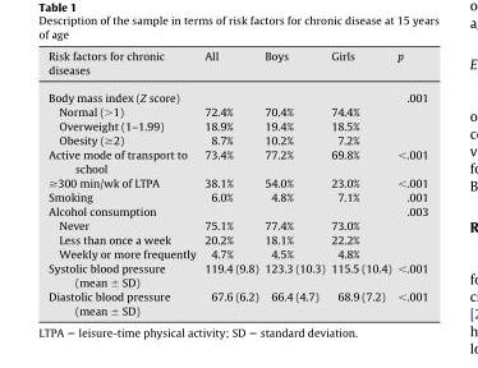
<table><thead><tr><td>Risk factors for chronic diseases</td><td>All</td><td>Boys</td><td>Girls</td><td>p</td></tr></thead><tbody><tr><td>Body mass index (Z score)</td><td></td><td></td><td></td><td>.001</td></tr><tr><td>Normal (&gt;1)</td><td>72.4%</td><td>70.4%</td><td>74.4%</td><td></td></tr><tr><td>Overweight (1–1.99)</td><td>18.9%</td><td>19.4%</td><td>18.5%</td><td></td></tr><tr><td>Obesity (≥2)</td><td>8.7%</td><td>10.2%</td><td>7.2%</td><td></td></tr><tr><td>Active mode of transport to school</td><td>73.4%</td><td>77.2%</td><td>69.8%</td><td>&lt;.001</td></tr><tr><td>≥300 min/wk of LTPA</td><td>38.1%</td><td>54.0%</td><td>23.0%</td><td>&lt;.001</td></tr><tr><td>Smoking</td><td>6.0%</td><td>4.8%</td><td>7.1%</td><td>.001</td></tr><tr><td>Alcohol consumption</td><td></td><td></td><td></td><td>.003</td></tr><tr><td>Never</td><td>75.1%</td><td>77.4%</td><td>73.0%</td><td></td></tr><tr><td>Less than once a week</td><td>20.2%</td><td>18.1%</td><td>22.2%</td><td></td></tr><tr><td>Weekly or more frequently</td><td>4.7%</td><td>4.5%</td><td>4.8%</td><td></td></tr><tr><td>Systolic blood pressure (mean ± SD)</td><td>119.4 (9.8)</td><td>123.3 (10.3)</td><td>115.5 (10.4)</td><td>&lt;.001</td></tr><tr><td>Diastolic blood pressure (mean ± SD)</td><td>67.6 (6.2)</td><td>66.4 (4.7)</td><td>68.9 (7.2)</td><td>&lt;.001</td></tr></tbody></table>